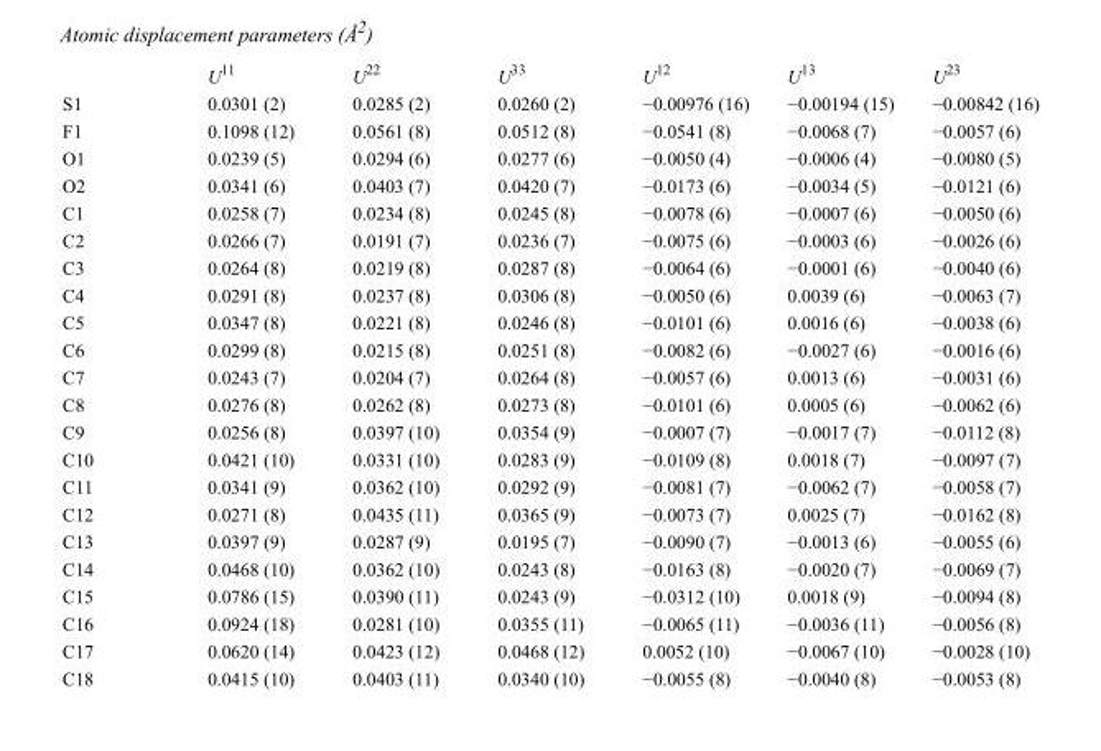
<table><thead><tr><td></td><td>U<sup>11</sup></td><td>U<sup>22</sup></td><td>U<sup>33</sup></td><td>U<sup>12</sup></td><td>U<sup>13</sup></td><td>U<sup>23</sup></td></tr></thead><tbody><tr><td>S1</td><td>0.0301 (2)</td><td>0.0285 (2)</td><td>0.0260 (2)</td><td>−0.00976 (16)</td><td>−0.00194 (15)</td><td>−0.00842 (16)</td></tr><tr><td>F1</td><td>0.1098 (12)</td><td>0.0561 (8)</td><td>0.0512 (8)</td><td>−0.0541 (8)</td><td>−0.0068 (7)</td><td>−0.0057 (6)</td></tr><tr><td>O1</td><td>0.0239 (5)</td><td>0.0294 (6)</td><td>0.0277 (6)</td><td>−0.0050 (4)</td><td>−0.0006 (4)</td><td>−0.0080 (5)</td></tr><tr><td>O2</td><td>0.0341 (6)</td><td>0.0403 (7)</td><td>0.0420 (7)</td><td>−0.0173 (6)</td><td>−0.0034 (5)</td><td>−0.0121 (6)</td></tr><tr><td>C1</td><td>0.0258 (7)</td><td>0.0234 (8)</td><td>0.0245 (8)</td><td>−0.0078 (6)</td><td>−0.0007 (6)</td><td>−0.0050 (6)</td></tr><tr><td>C2</td><td>0.0266 (7)</td><td>0.0191 (7)</td><td>0.0236 (7)</td><td>−0.0075 (6)</td><td>−0.0003 (6)</td><td>−0.0026 (6)</td></tr><tr><td>C3</td><td>0.0264 (8)</td><td>0.0219 (8)</td><td>0.0287 (8)</td><td>−0.0064 (6)</td><td>−0.0001 (6)</td><td>−0.0040 (6)</td></tr><tr><td>C4</td><td>0.0291 (8)</td><td>0.0237 (8)</td><td>0.0306 (8)</td><td>−0.0050 (6)</td><td>0.0039 (6)</td><td>−0.0063 (7)</td></tr><tr><td>C5</td><td>0.0347 (8)</td><td>0.0221 (8)</td><td>0.0246 (8)</td><td>−0.0101 (6)</td><td>0.0016 (6)</td><td>−0.0038 (6)</td></tr><tr><td>C6</td><td>0.0299 (8)</td><td>0.0215 (8)</td><td>0.0251 (8)</td><td>−0.0082 (6)</td><td>−0.0027 (6)</td><td>−0.0016 (6)</td></tr><tr><td>C7</td><td>0.0243 (7)</td><td>0.0204 (7)</td><td>0.0264 (8)</td><td>−0.0057 (6)</td><td>0.0013 (6)</td><td>−0.0031 (6)</td></tr><tr><td>C8</td><td>0.0276 (8)</td><td>0.0262 (8)</td><td>0.0273 (8)</td><td>−0.0101 (6)</td><td>0.0005 (6)</td><td>−0.0062 (6)</td></tr><tr><td>C9</td><td>0.0256 (8)</td><td>0.0397 (10)</td><td>0.0354 (9)</td><td>−0.0007 (7)</td><td>−0.0017 (7)</td><td>−0.0112 (8)</td></tr><tr><td>C10</td><td>0.0421 (10)</td><td>0.0331 (10)</td><td>0.0283 (9)</td><td>−0.0109 (8)</td><td>0.0018 (7)</td><td>−0.0097 (7)</td></tr><tr><td>C11</td><td>0.0341 (9)</td><td>0.0362 (10)</td><td>0.0292 (9)</td><td>−0.0081 (7)</td><td>−0.0062 (7)</td><td>−0.0058 (7)</td></tr><tr><td>C12</td><td>0.0271 (8)</td><td>0.0435 (11)</td><td>0.0365 (9)</td><td>−0.0073 (7)</td><td>0.0025 (7)</td><td>−0.0162 (8)</td></tr><tr><td>C13</td><td>0.0397 (9)</td><td>0.0287 (9)</td><td>0.0195 (7)</td><td>−0.0090 (7)</td><td>−0.0013 (6)</td><td>−0.0055 (6)</td></tr><tr><td>C14</td><td>0.0468 (10)</td><td>0.0362 (10)</td><td>0.0243 (8)</td><td>−0.0163 (8)</td><td>−0.0020 (7)</td><td>−0.0069 (7)</td></tr><tr><td>C15</td><td>0.0786 (15)</td><td>0.0390 (11)</td><td>0.0243 (9)</td><td>−0.0312 (10)</td><td>0.0018 (9)</td><td>−0.0094 (8)</td></tr><tr><td>C16</td><td>0.0924 (18)</td><td>0.0281 (10)</td><td>0.0355 (11)</td><td>−0.0065 (11)</td><td>−0.0036 (11)</td><td>−0.0056 (8)</td></tr><tr><td>C17</td><td>0.0620 (14)</td><td>0.0423 (12)</td><td>0.0468 (12)</td><td>0.0052 (10)</td><td>−0.0067 (10)</td><td>−0.0028 (10)</td></tr><tr><td>C18</td><td>0.0415 (10)</td><td>0.0403 (11)</td><td>0.0340 (10)</td><td>−0.0055 (8)</td><td>−0.0040 (8)</td><td>−0.0053 (8)</td></tr></tbody></table>